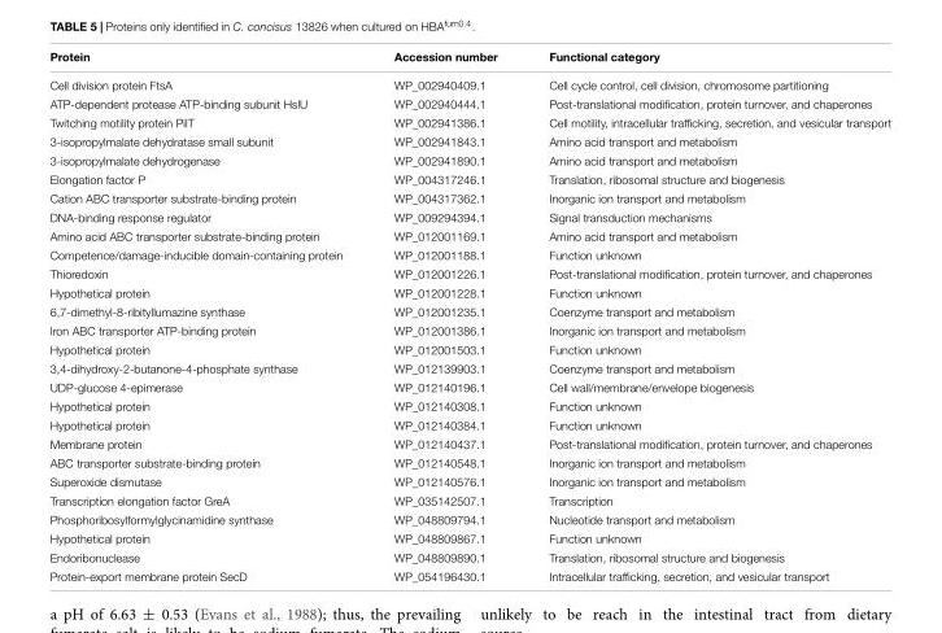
<table><thead><tr><td>Protein</td><td>Accession number</td><td>Functional category</td></tr></thead><tbody><tr><td>Cell division protein FtsA</td><td>WP_002940409.1</td><td>Cell cycle control, cell division, chromosome partitioning</td></tr><tr><td>ATP-dependent protease ATP-binding subunit HslU</td><td>WP_002940444.1</td><td>Post-translational modification, protein turnover, and chaperones</td></tr><tr><td>Twitching motility protein PilT</td><td>WP_002941386.1</td><td>Cell motility, intracellular trafficking, secretion, and vesicular transport</td></tr><tr><td>3-isopropylmalate dehydratase small subunit</td><td>WP_002941843.1</td><td>Amino acid transport and metabolism</td></tr><tr><td>3-isopropylmalate dehydrogenase</td><td>WP_002941890.1</td><td>Amino acid transport and metabolism</td></tr><tr><td>Elongation factor P</td><td>WP_004317246.1</td><td>Translation, ribosomal structure and biogenesis</td></tr><tr><td>Cation ABC transporter substrate-binding protein</td><td>WP_004317362.1</td><td>Inorganic ion transport and metabolism</td></tr><tr><td>DNA-binding response regulator</td><td>WP_009294394.1</td><td>Signal transduction mechanisms</td></tr><tr><td>Amino acid ABC transporter substrate-binding protein</td><td>WP_012001169.1</td><td>Amino acid transport and metabolism</td></tr><tr><td>Competence/damage-inducible domain-containing protein</td><td>WP_012001188.1</td><td>Function unknown</td></tr><tr><td>Thioredoxin</td><td>WP_012001226.1</td><td>Post-translational modification, protein turnover, and chaperones</td></tr><tr><td>Hypothetical protein</td><td>WP_012001228.1</td><td>Function unknown</td></tr><tr><td>6,7-dimethyl-8-ribityllumazine synthase</td><td>WP_012001235.1</td><td>Coenzyme transport and metabolism</td></tr><tr><td>Iron ABC transporter ATP-binding protein</td><td>WP_012001386.1</td><td>Inorganic ion transport and metabolism</td></tr><tr><td>Hypothetical protein</td><td>WP_012001503.1</td><td>Function unknown</td></tr><tr><td>3,4-dihydroxy-2-butanone-4-phosphate synthase</td><td>WP_012139903.1</td><td>Coenzyme transport and metabolism</td></tr><tr><td>UDP-glucose 4-epimerase</td><td>WP_012140196.1</td><td>Cell wall/membrane/envelope biogenesis</td></tr><tr><td>Hypothetical protein</td><td>WP_012140308.1</td><td>Function unknown</td></tr><tr><td>Hypothetical protein</td><td>WP_012140384.1</td><td>Function unknown</td></tr><tr><td>Membrane protein</td><td>WP_012140437.1</td><td>Post-translational modification, protein turnover, and chaperones</td></tr><tr><td>ABC transporter substrate-binding protein</td><td>WP_012140548.1</td><td>Inorganic ion transport and metabolism</td></tr><tr><td>Superoxide dismutase</td><td>WP_012140576.1</td><td>Inorganic ion transport and metabolism</td></tr><tr><td>Transcription elongation factor GreA</td><td>WP_035142507.1</td><td>Transcription</td></tr><tr><td>Phosphoribosylformylglycinamidine synthase</td><td>WP_048809794.1</td><td>Nucleotide transport and metabolism</td></tr><tr><td>Hypothetical protein</td><td>WP_048809867.1</td><td>Function unknown</td></tr><tr><td>Endoribonuclease</td><td>WP_048809890.1</td><td>Translation, ribosomal structure and biogenesis</td></tr><tr><td>Protein-export membrane protein SecD</td><td>WP_054196430.1</td><td>Intracellular trafficking, secretion, and vesicular transport</td></tr></tbody></table>